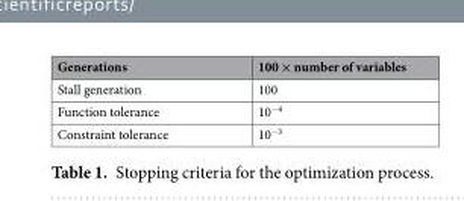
<table><thead><tr><td>Generations</td><td>100 × number of variables</td></tr></thead><tbody><tr><td>Stall generation</td><td>100</td></tr><tr><td>Function tolerance</td><td>10<sup>−4</sup></td></tr><tr><td>Constraint tolerance</td><td>10<sup>−3</sup></td></tr></tbody></table>